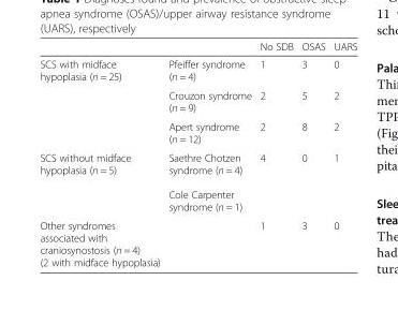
<table><thead><tr><td></td><td></td><td>No SDB</td><td>OSAS</td><td>UARS</td></tr></thead><tbody><tr><td rowspan="3">SCS with midface hypoplasia (n = 25)</td><td>Pfeiffer syndrome (n = 4)</td><td>1</td><td>3</td><td>0</td></tr><tr><td>Crouzon syndrome (n = 9)</td><td>2</td><td>5</td><td>2</td></tr><tr><td>Apert syndrome (n = 12)</td><td>2</td><td>8</td><td>2</td></tr><tr><td>SCS without midface hypoplasia (n = 5)</td><td>Saethre Chotzen syndrome (n = 4) Cole Carpenter syndrome (n = 1)</td><td>4</td><td>0</td><td>1</td></tr><tr><td>Other syndromes associated with craniosynostosis (n = 4) (2 with midface hypoplasia)</td><td></td><td>1</td><td>3</td><td>0</td></tr></tbody></table>